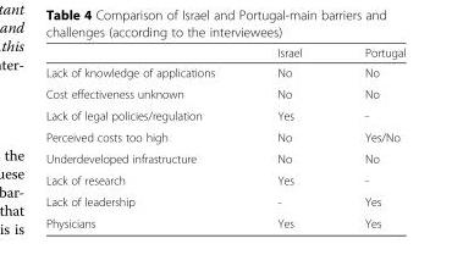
<table><thead><tr><td></td><td>Israel</td><td>Portugal</td></tr></thead><tbody><tr><td>Lack of knowledge of applications</td><td>No</td><td>No</td></tr><tr><td>Cost effectiveness unknown</td><td>No</td><td>No</td></tr><tr><td>Lack of legal policies/regulation</td><td>Yes</td><td>-</td></tr><tr><td>Perceived costs too high</td><td>No</td><td>Yes/No</td></tr><tr><td>Underdeveloped infrastructure</td><td>No</td><td>No</td></tr><tr><td>Lack of research</td><td>Yes</td><td>-</td></tr><tr><td>Lack of leadership</td><td>-</td><td>Yes</td></tr><tr><td>Physicians</td><td>Yes</td><td>Yes</td></tr></tbody></table>